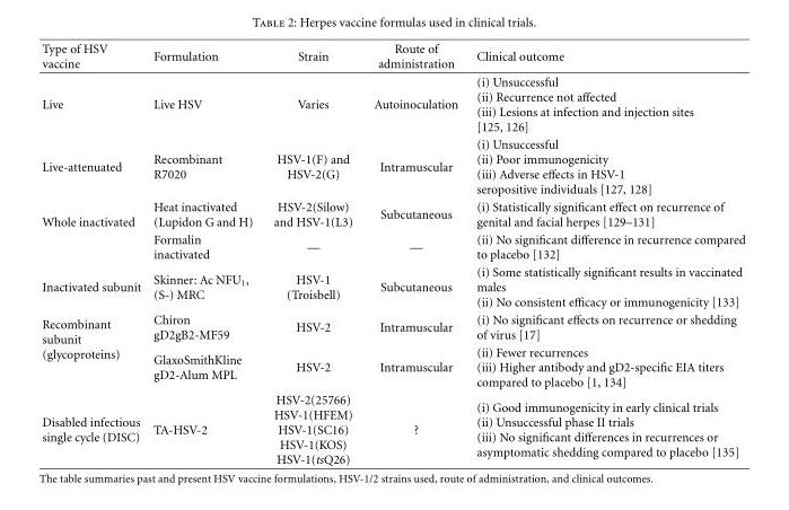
<table><thead><tr><td>Type of HSV vaccine</td><td>Formulation</td><td>Strain</td><td>Route of administration</td><td>Clinical outcome</td></tr></thead><tbody><tr><td>Live</td><td>Live HSV</td><td>Varies</td><td>Autoinoculation</td><td>(i) Unsuccessful (ii) Recurrence not affected (iii) Lesions at infection and injection sites [125, 126]</td></tr><tr><td>Live-attenuated</td><td>Recombinant R7020</td><td>HSV-1(F) and HSV-2(G)</td><td>Intramuscular</td><td>(i) Unsuccessful (ii) Poor immunogenicity (iii) Adverse effects in HSV-1 seropositive individuals [127, 128]</td></tr><tr><td rowspan="2">Whole inactivated</td><td>Heat inactivated (Lupidon G and H)</td><td>HSV-2(Silow) and HSV-1(L3)</td><td>Subcutaneous</td><td>(i) Statistically significant effect on recurrence of genital and facial herpes [129–131]</td></tr><tr><td>Formalin inactivated</td><td>—</td><td>—</td><td>(ii) No significant difference in recurrence compared to placebo [132]</td></tr><tr><td>Inactivated subunit</td><td>Skinner: Ac NFU<sub>1</sub>, (S-) MRC</td><td>HSV-1 (Troisbell)</td><td>Subcutaneous</td><td>(i) Some statistically significant results in vaccinated males (ii) No consistent efficacy or immunogenicity [133]</td></tr><tr><td rowspan="2">Recombinant subunit (glycoproteins)</td><td>Chiron gD2gB2-MF59</td><td>HSV-2</td><td>Intramuscular</td><td>(i) No significant effects on recurrence or shedding of virus [17]</td></tr><tr><td>GlaxoSmithKline gD2-Alum MPL</td><td>HSV-2</td><td>Intramuscular</td><td>(ii) Fewer recurrences (iii) Higher antibody and gD2-specific EIA titers compared to placebo [1, 134]</td></tr><tr><td>Disabled infectious single cycle (DISC)</td><td>TA-HSV-2</td><td>HSV-2(25766) HSV-1(HFEM) HSV-1(SC16) HSV-1(KOS) HSV-1(tsQ26)</td><td>?</td><td>(i) Good immunogenicity in early clinical trials (ii) Unsuccessful phase II trials (iii) No significant differences in recurrences or asymptomatic shedding compared to placebo [135]</td></tr></tbody></table>